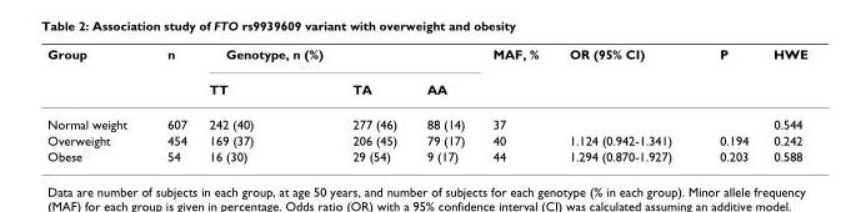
<table><thead><tr><td rowspan="2">Group</td><td rowspan="2">n</td><td rowspan="2">Genotype, n (%) TT</td><td rowspan="2">TA</td><td rowspan="2">AA</td><td rowspan="2">MAF, %</td><td rowspan="2">OR (95% CI)</td><td rowspan="2">P</td><td rowspan="2">HWE</td></tr><tr></tr></thead><tbody><tr><td>Normal weight</td><td>607</td><td>242 (40)</td><td>277 (46)</td><td>88 (14)</td><td>37</td><td></td><td></td><td>0.544</td></tr><tr><td>Overweight</td><td>454</td><td>169 (37)</td><td>206 (45)</td><td>79 (17)</td><td>40</td><td>1.124 (0.942-1.341)</td><td>0.194</td><td>0.242</td></tr><tr><td>Obese</td><td>54</td><td>16 (30)</td><td>29 (54)</td><td>9 (17)</td><td>44</td><td>1.294 (0.870-1.927)</td><td>0.203</td><td>0.588</td></tr></tbody></table>